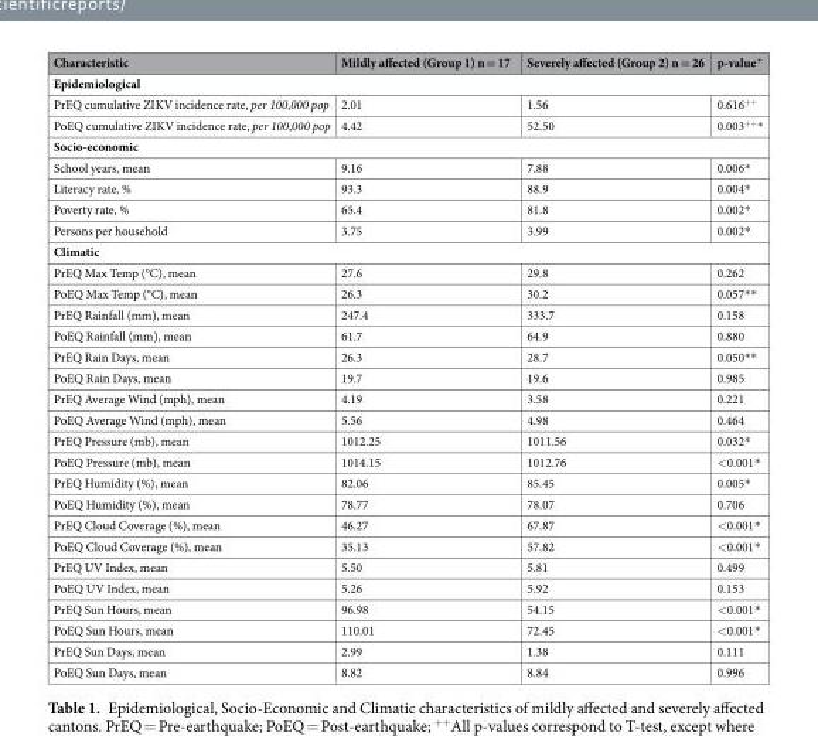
<table><thead><tr><td>Characteristic</td><td>Mildly affected (Group 1) n = 17</td><td>Severely affected (Group 2) n = 26</td><td>p-value<sup>+</sup></td></tr></thead><tbody><tr><td colspan="4">Epidemiological</td></tr><tr><td>PrEQ cumulative ZIKV incidence rate, per 100,000 pop</td><td>2.01</td><td>1.56</td><td>0.616<sup>++</sup></td></tr><tr><td>PoEQ cumulative ZIKV incidence rate, per 100,000 pop</td><td>4.42</td><td>52.50</td><td>0.003<sup>++</sup>*</td></tr><tr><td colspan="4">Socio-economic</td></tr><tr><td>School years, mean</td><td>9.16</td><td>7.88</td><td>0.006*</td></tr><tr><td>Literacy rate, %</td><td>93.3</td><td>88.9</td><td>0.004*</td></tr><tr><td>Poverty rate, %</td><td>65.4</td><td>81.8</td><td>0.002*</td></tr><tr><td>Persons per household</td><td>3.75</td><td>3.99</td><td>0.002*</td></tr><tr><td colspan="4">Climatic</td></tr><tr><td>PrEQ Max Temp (°C), mean</td><td>27.6</td><td>29.8</td><td>0.262</td></tr><tr><td>PoEQ Max Temp (°C), mean</td><td>26.3</td><td>30.2</td><td>0.057**</td></tr><tr><td>PrEQ Rainfall (mm), mean</td><td>247.4</td><td>333.7</td><td>0.158</td></tr><tr><td>PoEQ Rainfall (mm), mean</td><td>61.7</td><td>64.9</td><td>0.880</td></tr><tr><td>PrEQ Rain Days, mean</td><td>26.3</td><td>28.7</td><td>0.050**</td></tr><tr><td>PoEQ Rain Days, mean</td><td>19.7</td><td>19.6</td><td>0.985</td></tr><tr><td>PrEQ Average Wind (mph), mean</td><td>4.19</td><td>3.58</td><td>0.221</td></tr><tr><td>PoEQ Average Wind (mph), mean</td><td>5.56</td><td>4.98</td><td>0.464</td></tr><tr><td>PrEQ Pressure (mb), mean</td><td>1012.25</td><td>1011.56</td><td>0.032*</td></tr><tr><td>PoEQ Pressure (mb), mean</td><td>1014.15</td><td>1012.76</td><td>&lt;0.001*</td></tr><tr><td>PrEQ Humidity (%), mean</td><td>82.06</td><td>85.45</td><td>0.005*</td></tr><tr><td>PoEQ Humidity (%), mean</td><td>78.77</td><td>78.07</td><td>0.706</td></tr><tr><td>PrEQ Cloud Coverage (%), mean</td><td>46.27</td><td>67.87</td><td>&lt;0.001*</td></tr><tr><td>PoEQ Cloud Coverage (%), mean</td><td>35.13</td><td>57.82</td><td>&lt;0.001*</td></tr><tr><td>PrEQ UV Index, mean</td><td>5.50</td><td>5.81</td><td>0.499</td></tr><tr><td>PoEQ UV Index, mean</td><td>5.26</td><td>5.92</td><td>0.153</td></tr><tr><td>PrEQ Sun Hours, mean</td><td>96.98</td><td>54.15</td><td>&lt;0.001*</td></tr><tr><td>PoEQ Sun Hours, mean</td><td>110.01</td><td>72.45</td><td>&lt;0.001*</td></tr><tr><td>PrEQ Sun Days, mean</td><td>2.99</td><td>1.38</td><td>0.111</td></tr><tr><td>PoEQ Sun Days, mean</td><td>8.82</td><td>8.84</td><td>0.996</td></tr></tbody></table>